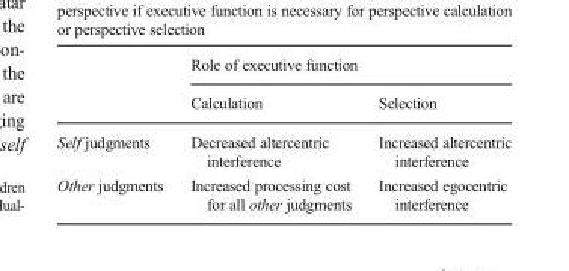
<table><thead><tr><td rowspan="2"></td><td colspan="2">Role of executive function</td></tr><tr><td>Calculation</td><td>Selection</td></tr></thead><tbody><tr><td>Self judgments</td><td>Decreased altercentric interference</td><td>Increased altercentric interference</td></tr><tr><td>Other judgments</td><td>Increased processing cost for all other judgments</td><td>Increased egocentric interference</td></tr></tbody></table>